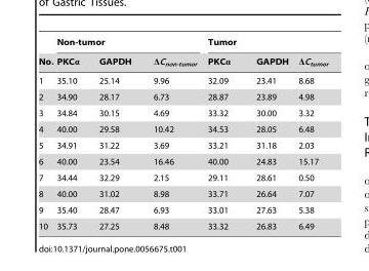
<table><thead><tr><td rowspan="2">No.</td><td colspan="3">Non-tumor</td><td colspan="3">Tumor</td></tr><tr><td>PKCα</td><td>GAPDH</td><td>ΔC<sub>non-tumor</sub></td><td>PKCα</td><td>GAPDH</td><td>ΔC<sub>tumor</sub></td></tr></thead><tbody><tr><td>1</td><td>35.10</td><td>25.14</td><td>9.96</td><td>32.09</td><td>23.41</td><td>8.68</td></tr><tr><td>2</td><td>34.90</td><td>28.17</td><td>6.73</td><td>28.87</td><td>23.89</td><td>4.98</td></tr><tr><td>3</td><td>34.84</td><td>30.15</td><td>4.69</td><td>33.32</td><td>30.00</td><td>3.32</td></tr><tr><td>4</td><td>40.00</td><td>29.58</td><td>10.42</td><td>34.53</td><td>28.05</td><td>6.48</td></tr><tr><td>5</td><td>34.91</td><td>31.22</td><td>3.69</td><td>33.21</td><td>31.18</td><td>2.03</td></tr><tr><td>6</td><td>40.00</td><td>23.54</td><td>16.46</td><td>40.00</td><td>24.83</td><td>15.17</td></tr><tr><td>7</td><td>34.44</td><td>32.29</td><td>2.15</td><td>29.11</td><td>28.61</td><td>0.50</td></tr><tr><td>8</td><td>40.00</td><td>31.02</td><td>8.98</td><td>33.71</td><td>26.64</td><td>7.07</td></tr><tr><td>9</td><td>35.40</td><td>28.47</td><td>6.93</td><td>33.01</td><td>27.63</td><td>5.38</td></tr><tr><td>10</td><td>35.73</td><td>27.25</td><td>8.48</td><td>33.32</td><td>26.83</td><td>6.49</td></tr></tbody></table>